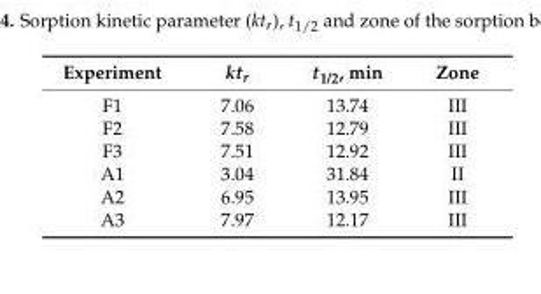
<table><thead><tr><td>Experiment</td><td>kt<sub>r</sub></td><td>t<sub>1/2</sub>, min</td><td>Zone</td></tr></thead><tbody><tr><td>F1</td><td>7.06</td><td>13.74</td><td>III</td></tr><tr><td>F2</td><td>7.58</td><td>12.79</td><td>III</td></tr><tr><td>F3</td><td>7.51</td><td>12.92</td><td>III</td></tr><tr><td>A1</td><td>3.04</td><td>31.84</td><td>II</td></tr><tr><td>A2</td><td>6.95</td><td>13.95</td><td>III</td></tr><tr><td>A3</td><td>7.97</td><td>12.17</td><td>III</td></tr></tbody></table>